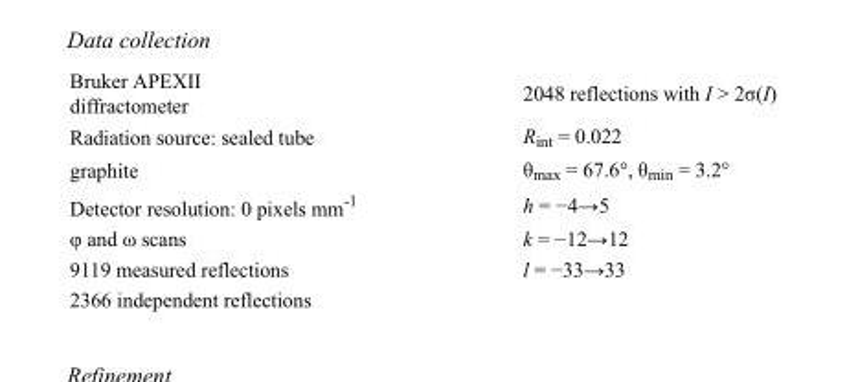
<table><tbody><tr><td>Bruker APEXII diffractometer</td><td>2048 reflections with I &gt; 2σ(I)</td></tr><tr><td>Radiation source: sealed tube</td><td>R<sub>int</sub> = 0.022</td></tr><tr><td>graphite</td><td>θ<sub>max</sub> = 67.6°, θ<sub>min</sub> = 3.2°</td></tr><tr><td>Detector resolution: 0 pixels mm<sup>-1</sup></td><td>h = −4→5</td></tr><tr><td>φ and ω scans</td><td>k = −12→12</td></tr><tr><td>9119 measured reflections</td><td>l = −33→33</td></tr><tr><td>2366 independent reflections</td><td></td></tr></tbody></table>